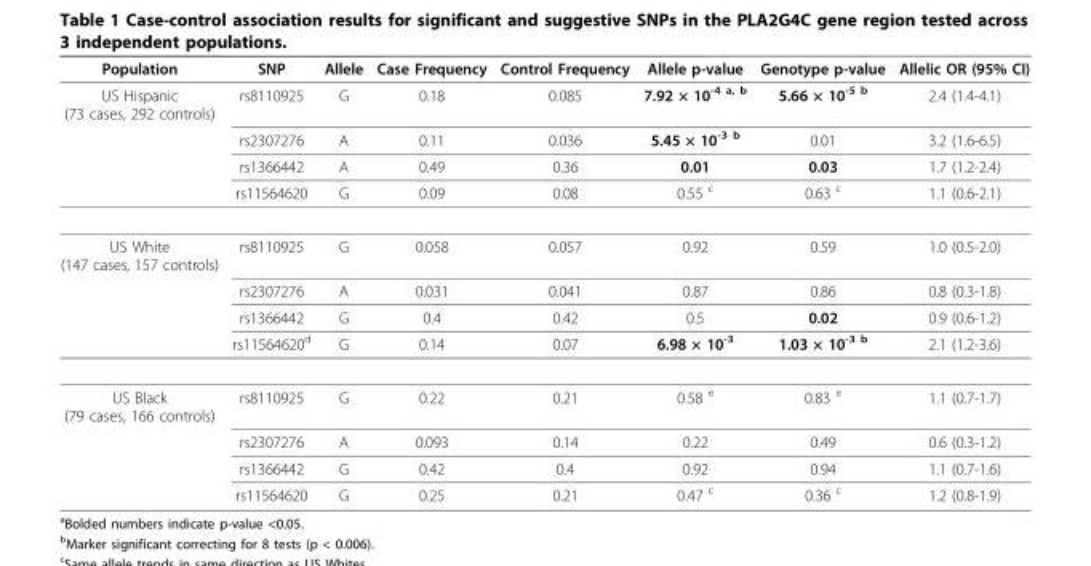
<table><thead><tr><td>Population</td><td>SNP</td><td>Allele</td><td>Case Frequency</td><td>Control Frequency</td><td>Allele p-value</td><td>Genotype p-value</td><td>Allelic OR (95% CI)</td></tr></thead><tbody><tr><td rowspan="4">US Hispanic (73 cases, 292 controls)</td><td>rs8110925</td><td>G</td><td>0.18</td><td>0.085</td><td>7.92 × 10-4 a, b</td><td>5.66 × 10-5 b</td><td>2.4 (1.4-4.1)</td></tr><tr><td>rs2307276</td><td>A</td><td>0.11</td><td>0.036</td><td>5.45 × 10-3 b</td><td>0.01</td><td>3.2 (1.6-6.5)</td></tr><tr><td>rs1366442</td><td>A</td><td>0.49</td><td>0.36</td><td>0.01</td><td>0.03</td><td>1.7 (1.2-2.4)</td></tr><tr><td>rs11564620</td><td>G</td><td>0.09</td><td>0.08</td><td>0.55 c</td><td>0.63 c</td><td>1.1 (0.6-2.1)</td></tr><tr><td rowspan="4">US White (147 cases, 157 controls)</td><td>rs8110925</td><td>G</td><td>0.058</td><td>0.057</td><td>0.92</td><td>0.59</td><td>1.0 (0.5-2.0)</td></tr><tr><td>rs2307276</td><td>A</td><td>0.031</td><td>0.041</td><td>0.87</td><td>0.86</td><td>0.8 (0.3-1.8)</td></tr><tr><td>rs1366442</td><td>G</td><td>0.4</td><td>0.42</td><td>0.5</td><td>0.02</td><td>0.9 (0.6-1.2)</td></tr><tr><td>rs11564620d</td><td>G</td><td>0.14</td><td>0.07</td><td>6.98 × 10-3</td><td>1.03 × 10-3 b</td><td>2.1 (1.2-3.6)</td></tr><tr><td rowspan="4">US Black (79 cases, 166 controls)</td><td>rs8110925</td><td>G</td><td>0.22</td><td>0.21</td><td>0.58 e</td><td>0.83 e</td><td>1.1 (0.7-1.7)</td></tr><tr><td>rs2307276</td><td>A</td><td>0.093</td><td>0.14</td><td>0.22</td><td>0.49</td><td>0.6 (0.3-1.2)</td></tr><tr><td>rs1366442</td><td>G</td><td>0.42</td><td>0.4</td><td>0.92</td><td>0.94</td><td>1.1 (0.7-1.6)</td></tr><tr><td>rs11564620</td><td>G</td><td>0.25</td><td>0.21</td><td>0.47 c</td><td>0.36 c</td><td>1.2 (0.8-1.9)</td></tr></tbody></table>